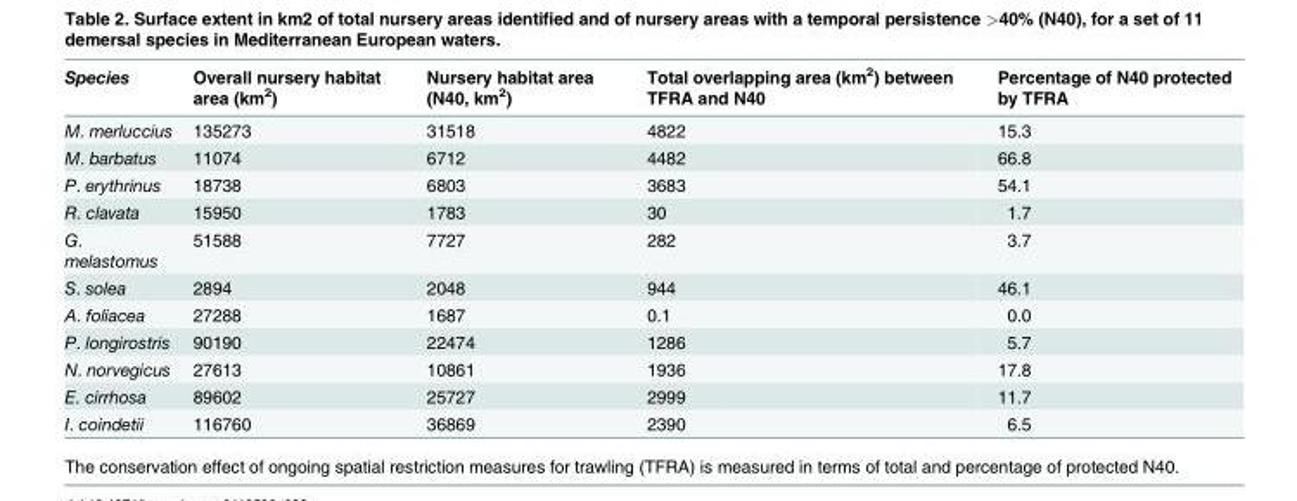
<table><thead><tr><td>Species</td><td>Overall nursery habitat area (km<sup>2</sup>)</td><td>Nursery habitat area (N40, km<sup>2</sup>)</td><td>Total overlapping area (km<sup>2</sup>) between TFRA and N40</td><td>Percentage of N40 protected by TFRA</td></tr></thead><tbody><tr><td>M. merluccius</td><td>135273</td><td>31518</td><td>4822</td><td>15.3</td></tr><tr><td>M. barbatus</td><td>11074</td><td>6712</td><td>4482</td><td>66.8</td></tr><tr><td>P. erythrinus</td><td>18738</td><td>6803</td><td>3683</td><td>54.1</td></tr><tr><td>R. clavata</td><td>15950</td><td>1783</td><td>30</td><td>1.7</td></tr><tr><td>G. melastomus</td><td>51588</td><td>7727</td><td>282</td><td>3.7</td></tr><tr><td>S. solea</td><td>2894</td><td>2048</td><td>944</td><td>46.1</td></tr><tr><td>A. foliacea</td><td>27288</td><td>1687</td><td>0.1</td><td>0.0</td></tr><tr><td>P. longirostris</td><td>90190</td><td>22474</td><td>1286</td><td>5.7</td></tr><tr><td>N. norvegicus</td><td>27613</td><td>10861</td><td>1936</td><td>17.8</td></tr><tr><td>E. cirrhosa</td><td>89602</td><td>25727</td><td>2999</td><td>11.7</td></tr><tr><td>I. coindetii</td><td>116760</td><td>36869</td><td>2390</td><td>6.5</td></tr></tbody></table>